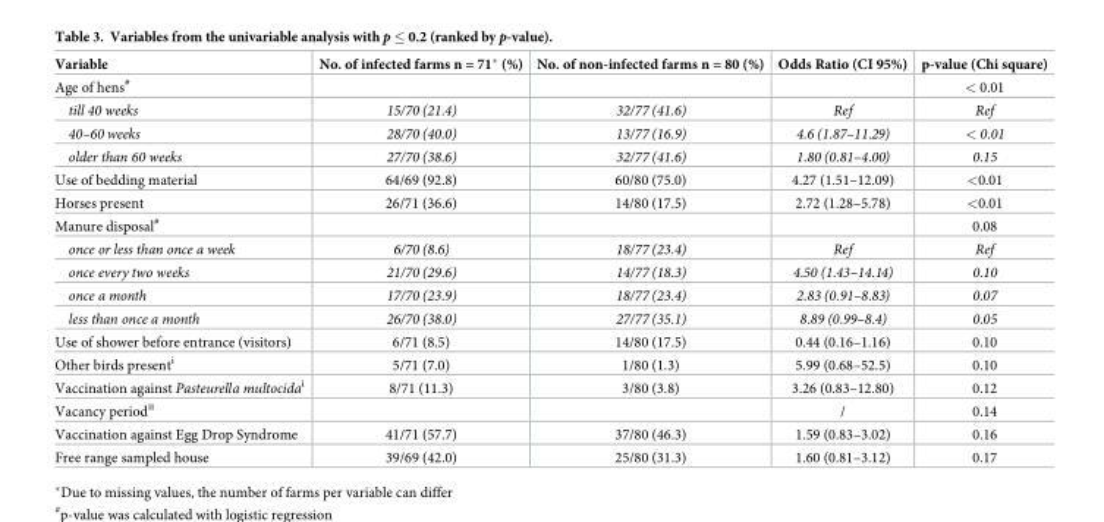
<table><thead><tr><td>Variable</td><td>No. of infected farms n = 71* (%)</td><td>No. of non-infected farms n = 80 (%)</td><td>Odds Ratio (CI 95%)</td><td>p-value (Chi square)</td></tr></thead><tbody><tr><td>Age of hens<sup>#</sup></td><td></td><td></td><td></td><td>&lt; 0.01</td></tr><tr><td>till 40 weeks</td><td>15/70 (21.4)</td><td>32/77 (41.6)</td><td>Ref</td><td>Ref</td></tr><tr><td>40–60 weeks</td><td>28/70 (40.0)</td><td>13/77 (16.9)</td><td>4.6 (1.87–11.29)</td><td>&lt; 0.01</td></tr><tr><td>older than 60 weeks</td><td>27/70 (38.6)</td><td>32/77 (41.6)</td><td>1.80 (0.81–4.00)</td><td>0.15</td></tr><tr><td>Use of bedding material</td><td>64/69 (92.8)</td><td>60/80 (75.0)</td><td>4.27 (1.51–12.09)</td><td>&lt;0.01</td></tr><tr><td>Horses present</td><td>26/71 (36.6)</td><td>14/80 (17.5)</td><td>2.72 (1.28–5.78)</td><td>&lt;0.01</td></tr><tr><td>Manure disposal<sup>#</sup></td><td></td><td></td><td></td><td>0.08</td></tr><tr><td>once or less than once a week</td><td>6/70 (8.6)</td><td>18/77 (23.4)</td><td>Ref</td><td>Ref</td></tr><tr><td>once every two weeks</td><td>21/70 (29.6)</td><td>14/77 (18.3)</td><td>4.50 (1.43–14.14)</td><td>0.10</td></tr><tr><td>once a month</td><td>17/70 (23.9)</td><td>18/77 (23.4)</td><td>2.83 (0.91–8.83)</td><td>0.07</td></tr><tr><td>less than once a month</td><td>26/70 (38.0)</td><td>27/77 (35.1)</td><td>8.89 (0.99–8.4)</td><td>0.05</td></tr><tr><td>Use of shower before entrance (visitors)</td><td>6/71 (8.5)</td><td>14/80 (17.5)</td><td>0.44 (0.16–1.16)</td><td>0.10</td></tr><tr><td>Other birds present<sup>i</sup></td><td>5/71 (7.0)</td><td>1/80 (1.3)</td><td>5.99 (0.68–52.5)</td><td>0.10</td></tr><tr><td>Vaccination against Pasteurella multocida<sup>i</sup></td><td>8/71 (11.3)</td><td>3/80 (3.8)</td><td>3.26 (0.83–12.80)</td><td>0.12</td></tr><tr><td>Vacancy period<sup>ii</sup></td><td></td><td></td><td>/</td><td>0.14</td></tr><tr><td>Vaccination against Egg Drop Syndrome</td><td>41/71 (57.7)</td><td>37/80 (46.3)</td><td>1.59 (0.83–3.02)</td><td>0.16</td></tr><tr><td>Free range sampled house</td><td>39/69 (42.0)</td><td>25/80 (31.3)</td><td>1.60 (0.81–3.12)</td><td>0.17</td></tr></tbody></table>